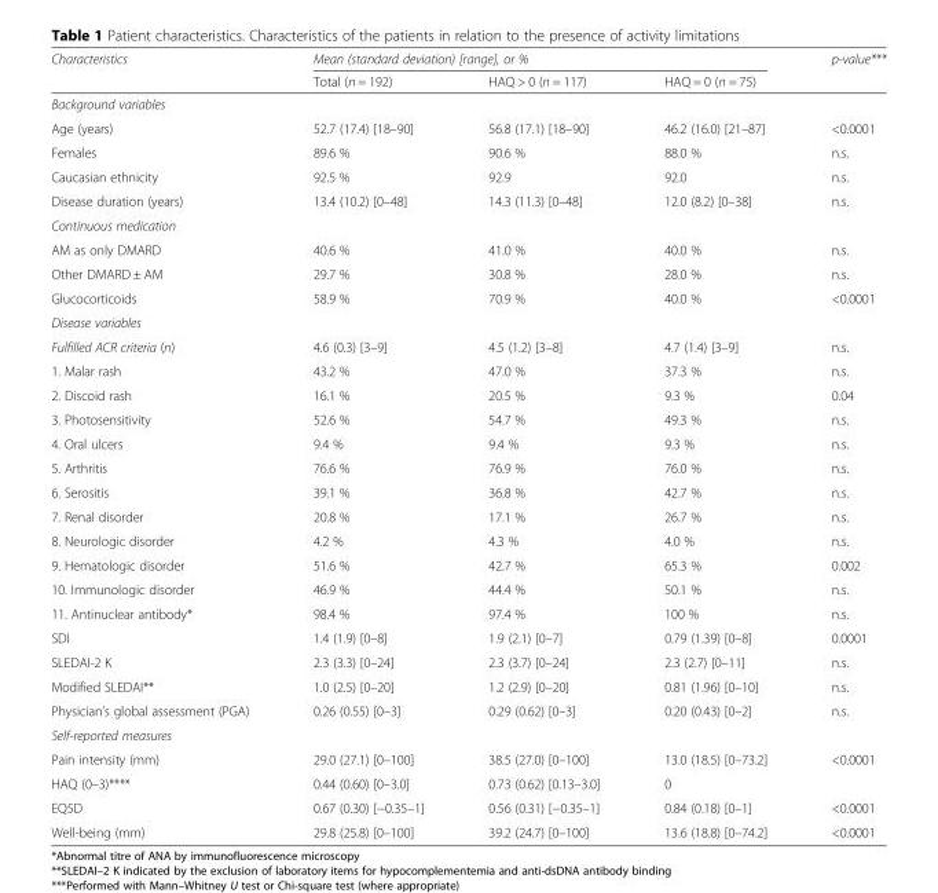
<table><thead><tr><td rowspan="2">Characteristics</td><td colspan="3">Mean (standard deviation) [range], or %</td><td rowspan="2">p-value***</td></tr><tr><td>Total (n = 192)</td><td>HAQ &gt; 0 (n = 117)</td><td>HAQ = 0 (n = 75)</td></tr></thead><tbody><tr><td colspan="5">Background variables</td></tr><tr><td>Age (years)</td><td>52.7 (17.4) [18–90]</td><td>56.8 (17.1) [18–90]</td><td>46.2 (16.0) [21–87]</td><td>&lt;0.0001</td></tr><tr><td>Females</td><td>89.6 %</td><td>90.6 %</td><td>88.0 %</td><td>n.s.</td></tr><tr><td>Caucasian ethnicity</td><td>92.5 %</td><td>92.9</td><td>92.0</td><td>n.s.</td></tr><tr><td>Disease duration (years)</td><td>13.4 (10.2) [0–48]</td><td>14.3 (11.3) [0–48]</td><td>12.0 (8.2) [0–38]</td><td>n.s.</td></tr><tr><td colspan="5">Continuous medication</td></tr><tr><td>AM as only DMARD</td><td>40.6 %</td><td>41.0 %</td><td>40.0 %</td><td>n.s.</td></tr><tr><td>Other DMARD ± AM</td><td>29.7 %</td><td>30.8 %</td><td>28.0 %</td><td>n.s.</td></tr><tr><td>Glucocorticoids</td><td>58.9 %</td><td>70.9 %</td><td>40.0 %</td><td>&lt;0.0001</td></tr><tr><td colspan="5">Disease variables</td></tr><tr><td>Fulfilled ACR criteria (n)</td><td>4.6 (0.3) [3–9]</td><td>4.5 (1.2) [3–8]</td><td>4.7 (1.4) [3–9]</td><td>n.s.</td></tr><tr><td>1. Malar rash</td><td>43.2 %</td><td>47.0 %</td><td>37.3 %</td><td>n.s.</td></tr><tr><td>2. Discoid rash</td><td>16.1 %</td><td>20.5 %</td><td>9.3 %</td><td>0.04</td></tr><tr><td>3. Photosensitivity</td><td>52.6 %</td><td>54.7 %</td><td>49.3 %</td><td>n.s.</td></tr><tr><td>4. Oral ulcers</td><td>9.4 %</td><td>9.4 %</td><td>9.3 %</td><td>n.s.</td></tr><tr><td>5. Arthritis</td><td>76.6 %</td><td>76.9 %</td><td>76.0 %</td><td>n.s.</td></tr><tr><td>6. Serositis</td><td>39.1 %</td><td>36.8 %</td><td>42.7 %</td><td>n.s.</td></tr><tr><td>7. Renal disorder</td><td>20.8 %</td><td>17.1 %</td><td>26.7 %</td><td>n.s.</td></tr><tr><td>8. Neurologic disorder</td><td>4.2 %</td><td>4.3 %</td><td>4.0 %</td><td>n.s.</td></tr><tr><td>9. Hematologic disorder</td><td>51.6 %</td><td>42.7 %</td><td>65.3 %</td><td>0.002</td></tr><tr><td>10. Immunologic disorder</td><td>46.9 %</td><td>44.4 %</td><td>50.1 %</td><td>n.s.</td></tr><tr><td>11. Antinuclear antibody*</td><td>98.4 %</td><td>97.4 %</td><td>100 %</td><td>n.s.</td></tr><tr><td>SDI</td><td>1.4 (1.9) [0–8]</td><td>1.9 (2.1) [0–7]</td><td>0.79 (1.39) [0–8]</td><td>0.0001</td></tr><tr><td>SLEDAI-2 K</td><td>2.3 (3.3) [0–24]</td><td>2.3 (3.7) [0–24]</td><td>2.3 (2.7) [0–11]</td><td>n.s.</td></tr><tr><td>Modified SLEDAI**</td><td>1.0 (2.5) [0–20]</td><td>1.2 (2.9) [0–20]</td><td>0.81 (1.96) [0–10]</td><td>n.s.</td></tr><tr><td>Physician’s global assessment (PGA)</td><td>0.26 (0.55) [0–3]</td><td>0.29 (0.62) [0–3]</td><td>0.20 (0.43) [0–2]</td><td>n.s.</td></tr><tr><td colspan="5">Self-reported measures</td></tr><tr><td>Pain intensity (mm)</td><td>29.0 (27.1) [0–100]</td><td>38.5 (27.0) [0–100]</td><td>13.0 (18.5) [0–73.2]</td><td>&lt;0.0001</td></tr><tr><td>HAQ (0–3)****</td><td>0.44 (0.60) [0–3.0]</td><td>0.73 (0.62) [0.13–3.0]</td><td>0</td><td></td></tr><tr><td>EQ5D</td><td>0.67 (0.30) [−0.35–1]</td><td>0.56 (0.31) [−0.35–1]</td><td>0.84 (0.18) [0–1]</td><td>&lt;0.0001</td></tr><tr><td>Well-being (mm)</td><td>29.8 (25.8) [0–100]</td><td>39.2 (24.7) [0–100]</td><td>13.6 (18.8) [0–74.2]</td><td>&lt;0.0001</td></tr></tbody></table>